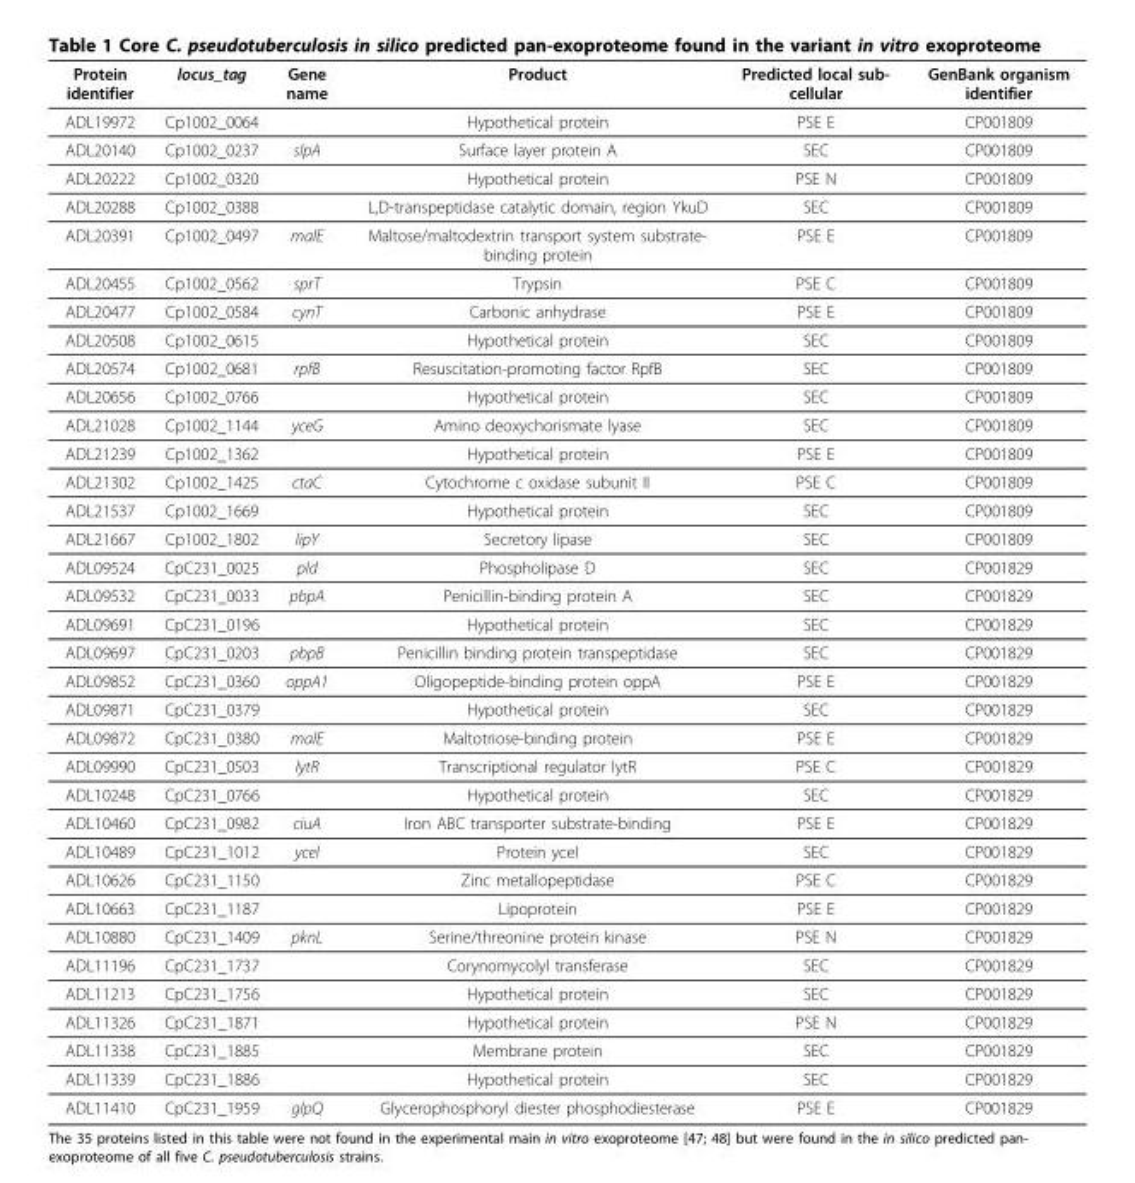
<table><thead><tr><td>Protein identifier</td><td>locus_tag</td><td>Gene name</td><td>Product</td><td>Predicted local sub- cellular</td><td>GenBank organism identifier</td></tr></thead><tbody><tr><td>ADL19972</td><td>Cp1002_0064</td><td></td><td>Hypothetical protein</td><td>PSE E</td><td>CP001809</td></tr><tr><td>ADL20140</td><td>Cp1002_0237</td><td>slpA</td><td>Surface layer protein A</td><td>SEC</td><td>CP001809</td></tr><tr><td>ADL20222</td><td>Cp1002_0320</td><td></td><td>Hypothetical protein</td><td>PSE N</td><td>CP001809</td></tr><tr><td>ADL20288</td><td>Cp1002_0388</td><td></td><td>L,D-transpeptidase catalytic domain, region YkuD</td><td>SEC</td><td>CP001809</td></tr><tr><td>ADL20391</td><td>Cp1002_0497</td><td>malE</td><td>Maltose/maltodextrin transport system substrate- binding protein</td><td>PSE E</td><td>CP001809</td></tr><tr><td>ADL20455</td><td>Cp1002_0562</td><td>sprT</td><td>Trypsin</td><td>PSE C</td><td>CP001809</td></tr><tr><td>ADL20477</td><td>Cp1002_0584</td><td>cynT</td><td>Carbonic anhydrase</td><td>PSE E</td><td>CP001809</td></tr><tr><td>ADL20508</td><td>Cp1002_0615</td><td></td><td>Hypothetical protein</td><td>SEC</td><td>CP001809</td></tr><tr><td>ADL20574</td><td>Cp1002_0681</td><td>rpfB</td><td>Resuscitation-promoting factor RpfB</td><td>SEC</td><td>CP001809</td></tr><tr><td>ADL20656</td><td>Cp1002_0766</td><td></td><td>Hypothetical protein</td><td>SEC</td><td>CP001809</td></tr><tr><td>ADL21028</td><td>Cp1002_1144</td><td>yceG</td><td>Amino deoxychorismate lyase</td><td>SEC</td><td>CP001809</td></tr><tr><td>ADL21239</td><td>Cp1002_1362</td><td></td><td>Hypothetical protein</td><td>PSE E</td><td>CP001809</td></tr><tr><td>ADL21302</td><td>Cp1002_1425</td><td>ctaC</td><td>Cytochrome c oxidase subunit II</td><td>PSE C</td><td>CP001809</td></tr><tr><td>ADL21537</td><td>Cp1002_1669</td><td></td><td>Hypothetical protein</td><td>SEC</td><td>CP001809</td></tr><tr><td>ADL21667</td><td>Cp1002_1802</td><td>lipY</td><td>Secretory lipase</td><td>SEC</td><td>CP001809</td></tr><tr><td>ADL09524</td><td>CpC231_0025</td><td>pld</td><td>Phospholipase D</td><td>SEC</td><td>CP001829</td></tr><tr><td>ADL09532</td><td>CpC231_0033</td><td>pbpA</td><td>Penicillin-binding protein A</td><td>SEC</td><td>CP001829</td></tr><tr><td>ADL09691</td><td>CpC231_0196</td><td></td><td>Hypothetical protein</td><td>SEC</td><td>CP001829</td></tr><tr><td>ADL09697</td><td>CpC231_0203</td><td>pbpB</td><td>Penicillin binding protein transpeptidase</td><td>SEC</td><td>CP001829</td></tr><tr><td>ADL09852</td><td>CpC231_0360</td><td>oppA1</td><td>Oligopeptide-binding protein oppA</td><td>PSE E</td><td>CP001829</td></tr><tr><td>ADL09871</td><td>CpC231_0379</td><td></td><td>Hypothetical protein</td><td>SEC</td><td>CP001829</td></tr><tr><td>ADL09872</td><td>CpC231_0380</td><td>malE</td><td>Maltotriose-binding protein</td><td>PSE E</td><td>CP001829</td></tr><tr><td>ADL09990</td><td>CpC231_0503</td><td>lytR</td><td>Transcriptional regulator lytR</td><td>PSE C</td><td>CP001829</td></tr><tr><td>ADL10248</td><td>CpC231_0766</td><td></td><td>Hypothetical protein</td><td>SEC</td><td>CP001829</td></tr><tr><td>ADL10460</td><td>CpC231_0982</td><td>ciuA</td><td>Iron ABC transporter substrate-binding</td><td>PSE E</td><td>CP001829</td></tr><tr><td>ADL10489</td><td>CpC231_1012</td><td>yceI</td><td>Protein yceI</td><td>SEC</td><td>CP001829</td></tr><tr><td>ADL10626</td><td>CpC231_1150</td><td></td><td>Zinc metallopeptidase</td><td>PSE C</td><td>CP001829</td></tr><tr><td>ADL10663</td><td>CpC231_1187</td><td></td><td>Lipoprotein</td><td>PSE E</td><td>CP001829</td></tr><tr><td>ADL10880</td><td>CpC231_1409</td><td>pknL</td><td>Serine/threonine protein kinase</td><td>PSE N</td><td>CP001829</td></tr><tr><td>ADL11196</td><td>CpC231_1737</td><td></td><td>Corynomycolyl transferase</td><td>SEC</td><td>CP001829</td></tr><tr><td>ADL11213</td><td>CpC231_1756</td><td></td><td>Hypothetical protein</td><td>SEC</td><td>CP001829</td></tr><tr><td>ADL11326</td><td>CpC231_1871</td><td></td><td>Hypothetical protein</td><td>PSE N</td><td>CP001829</td></tr><tr><td>ADL11338</td><td>CpC231_1885</td><td></td><td>Membrane protein</td><td>SEC</td><td>CP001829</td></tr><tr><td>ADL11339</td><td>CpC231_1886</td><td></td><td>Hypothetical protein</td><td>SEC</td><td>CP001829</td></tr><tr><td>ADL11410</td><td>CpC231_1959</td><td>glpQ</td><td>Glycerophosphoryl diester phosphodiesterase</td><td>PSE E</td><td>CP001829</td></tr></tbody></table>